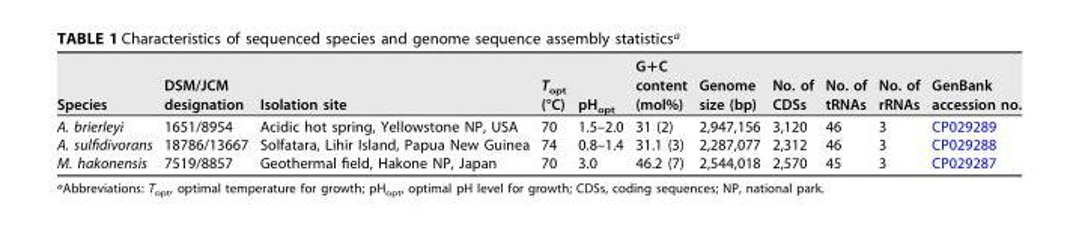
<table><thead><tr><td>Species</td><td>DSM/JCM designation</td><td>Isolation site</td><td>T<sub>opt</sub> (°C)</td><td>pH<sub>opt</sub></td><td>G+C content (mol%)</td><td>Genome size (bp)</td><td>No. of CDSs</td><td>No. of tRNAs</td><td>No. of rRNAs</td><td>GenBank accession no.</td></tr></thead><tbody><tr><td>A. brierleyi</td><td>1651/8954</td><td>Acidic hot spring, Yellowstone NP, USA</td><td>70</td><td>1.5–2.0</td><td>31 (2)</td><td>2,947,156</td><td>3,120</td><td>46</td><td>3</td><td>CP029289</td></tr><tr><td>A. sulfidivorans</td><td>18786/13667</td><td>Solfatara, Lihir Island, Papua New Guinea</td><td>74</td><td>0.8–1.4</td><td>31.1 (3)</td><td>2,287,077</td><td>2,312</td><td>46</td><td>3</td><td>CP029288</td></tr><tr><td>M. hakonensis</td><td>7519/8857</td><td>Geothermal field, Hakone NP, Japan</td><td>70</td><td>3.0</td><td>46.2 (7)</td><td>2,544,018</td><td>2,570</td><td>45</td><td>3</td><td>CP029287</td></tr></tbody></table>